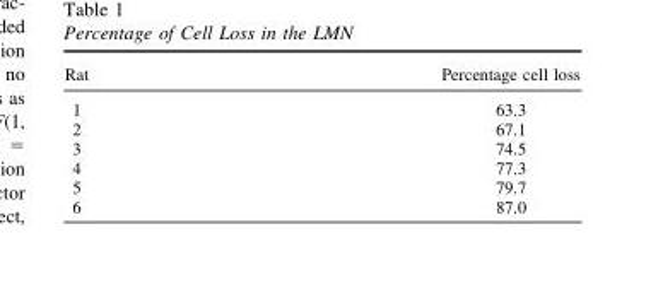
<table><thead><tr><td>Rat</td><td>Percentage cell loss</td></tr></thead><tbody><tr><td>1</td><td>63.3</td></tr><tr><td>2</td><td>67.1</td></tr><tr><td>3</td><td>74.5</td></tr><tr><td>4</td><td>77.3</td></tr><tr><td>5</td><td>79.7</td></tr><tr><td>6</td><td>87.0</td></tr></tbody></table>